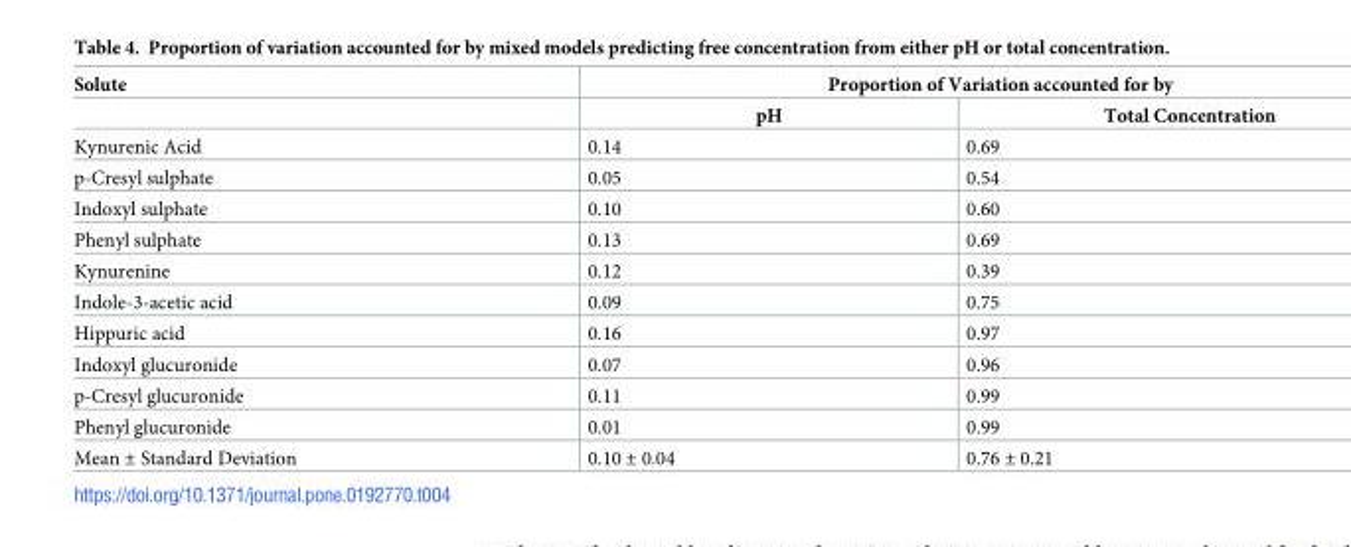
<table><thead><tr><td rowspan="2">Solute</td><td colspan="2">Proportion of Variation accounted for by</td></tr><tr><td>pH</td><td>Total Concentration</td></tr></thead><tbody><tr><td>Kynurenic Acid</td><td>0.14</td><td>0.69</td></tr><tr><td>p-Cresyl sulphate</td><td>0.05</td><td>0.54</td></tr><tr><td>Indoxyl sulphate</td><td>0.10</td><td>0.60</td></tr><tr><td>Phenyl sulphate</td><td>0.13</td><td>0.69</td></tr><tr><td>Kynurenine</td><td>0.12</td><td>0.39</td></tr><tr><td>Indole-3-acetic acid</td><td>0.09</td><td>0.75</td></tr><tr><td>Hippuric acid</td><td>0.16</td><td>0.97</td></tr><tr><td>Indoxyl glucuronide</td><td>0.07</td><td>0.96</td></tr><tr><td>p-Cresyl glucuronide</td><td>0.11</td><td>0.99</td></tr><tr><td>Phenyl glucuronide</td><td>0.01</td><td>0.99</td></tr><tr><td>Mean ± Standard Deviation</td><td>0.10 ± 0.04</td><td>0.76 ± 0.21</td></tr></tbody></table>